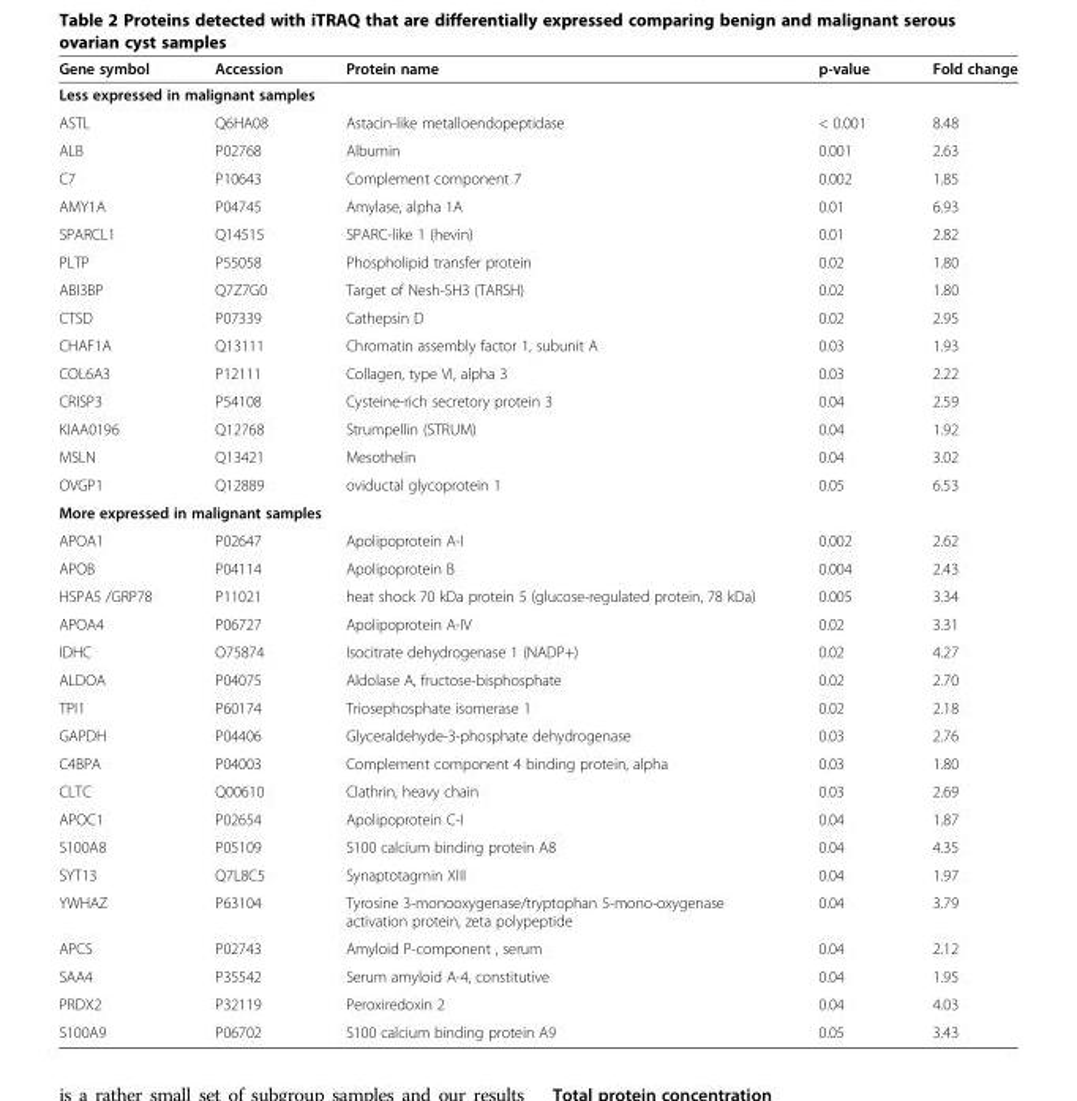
<table><thead><tr><td>Gene symbol</td><td>Accession</td><td>Protein name</td><td>p-value</td><td>Fold change</td></tr></thead><tbody><tr><td colspan="5">Less expressed in malignant samples</td></tr><tr><td>ASTL</td><td>Q6HA08</td><td>Astacin-like metalloendopeptidase</td><td>&lt; 0.001</td><td>8.48</td></tr><tr><td>ALB</td><td>P02768</td><td>Albumin</td><td>0.001</td><td>2.63</td></tr><tr><td>C7</td><td>P10643</td><td>Complement component 7</td><td>0.002</td><td>1.85</td></tr><tr><td>AMY1A</td><td>P04745</td><td>Amylase, alpha 1A</td><td>0.01</td><td>6.93</td></tr><tr><td>SPARCL1</td><td>Q14515</td><td>SPARC-like 1 (hevin)</td><td>0.01</td><td>2.82</td></tr><tr><td>PLTP</td><td>P55058</td><td>Phospholipid transfer protein</td><td>0.02</td><td>1.80</td></tr><tr><td>ABI3BP</td><td>Q7Z7G0</td><td>Target of Nesh-SH3 (TARSH)</td><td>0.02</td><td>1.80</td></tr><tr><td>CTSD</td><td>P07339</td><td>Cathepsin D</td><td>0.02</td><td>2.95</td></tr><tr><td>CHAF1A</td><td>Q13111</td><td>Chromatin assembly factor 1, subunit A</td><td>0.03</td><td>1.93</td></tr><tr><td>COL6A3</td><td>P12111</td><td>Collagen, type VI, alpha 3</td><td>0.03</td><td>2.22</td></tr><tr><td>CRISP3</td><td>P54108</td><td>Cysteine-rich secretory protein 3</td><td>0.04</td><td>2.59</td></tr><tr><td>KIAA0196</td><td>Q12768</td><td>Strumpellin (STRUM)</td><td>0.04</td><td>1.92</td></tr><tr><td>MSLN</td><td>Q13421</td><td>Mesothelin</td><td>0.04</td><td>3.02</td></tr><tr><td>OVGP1</td><td>Q12889</td><td>oviductal glycoprotein 1</td><td>0.05</td><td>6.53</td></tr><tr><td colspan="5">More expressed in malignant samples</td></tr><tr><td>APOA1</td><td>P02647</td><td>Apolipoprotein A-I</td><td>0.002</td><td>2.62</td></tr><tr><td>APOB</td><td>P04114</td><td>Apolipoprotein B</td><td>0.004</td><td>2.43</td></tr><tr><td>HSPA5 /GRP78</td><td>P11021</td><td>heat shock 70 kDa protein 5 (glucose-regulated protein, 78 kDa)</td><td>0.005</td><td>3.34</td></tr><tr><td>APOA4</td><td>P06727</td><td>Apolipoprotein A-IV</td><td>0.02</td><td>3.31</td></tr><tr><td>IDHC</td><td>O75874</td><td>Isocitrate dehydrogenase 1 (NADP+)</td><td>0.02</td><td>4.27</td></tr><tr><td>ALDOA</td><td>P04075</td><td>Aldolase A, fructose-bisphosphate</td><td>0.02</td><td>2.70</td></tr><tr><td>TPI1</td><td>P60174</td><td>Triosephosphate isomerase 1</td><td>0.02</td><td>2.18</td></tr><tr><td>GAPDH</td><td>P04406</td><td>Glyceraldehyde-3-phosphate dehydrogenase</td><td>0.03</td><td>2.76</td></tr><tr><td>C4BPA</td><td>P04003</td><td>Complement component 4 binding protein, alpha</td><td>0.03</td><td>1.80</td></tr><tr><td>CLTC</td><td>Q00610</td><td>Clathrin, heavy chain</td><td>0.03</td><td>2.69</td></tr><tr><td>APOC1</td><td>P02654</td><td>Apolipoprotein C-I</td><td>0.04</td><td>1.87</td></tr><tr><td>S100A8</td><td>P05109</td><td>S100 calcium binding protein A8</td><td>0.04</td><td>4.35</td></tr><tr><td>SYT13</td><td>Q7L8C5</td><td>Synaptotagmin XIII</td><td>0.04</td><td>1.97</td></tr><tr><td>YWHAZ</td><td>P63104</td><td>Tyrosine 3-monooxygenase/tryptophan 5-mono-oxygenase activation protein, zeta polypeptide</td><td>0.04</td><td>3.79</td></tr><tr><td>APCS</td><td>P02743</td><td>Amyloid P-component , serum</td><td>0.04</td><td>2.12</td></tr><tr><td>SAA4</td><td>P35542</td><td>Serum amyloid A-4, constitutive</td><td>0.04</td><td>1.95</td></tr><tr><td>PRDX2</td><td>P32119</td><td>Peroxiredoxin 2</td><td>0.04</td><td>4.03</td></tr><tr><td>S100A9</td><td>P06702</td><td>S100 calcium binding protein A9</td><td>0.05</td><td>3.43</td></tr></tbody></table>